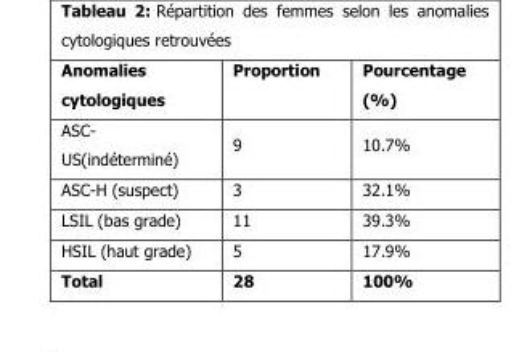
<table><thead><tr><td>Anomalies cytologiques</td><td>Proportion</td><td>Pourcentage (%)</td></tr></thead><tbody><tr><td>ASC- US(indéterminé)</td><td>9</td><td>10.7%</td></tr><tr><td>ASC-H (suspect)</td><td>3</td><td>32.1%</td></tr><tr><td>LSIL (bas grade)</td><td>11</td><td>39.3%</td></tr><tr><td>HSIL (haut grade)</td><td>5</td><td>17.9%</td></tr><tr><td>Total</td><td>28</td><td>100%</td></tr></tbody></table>